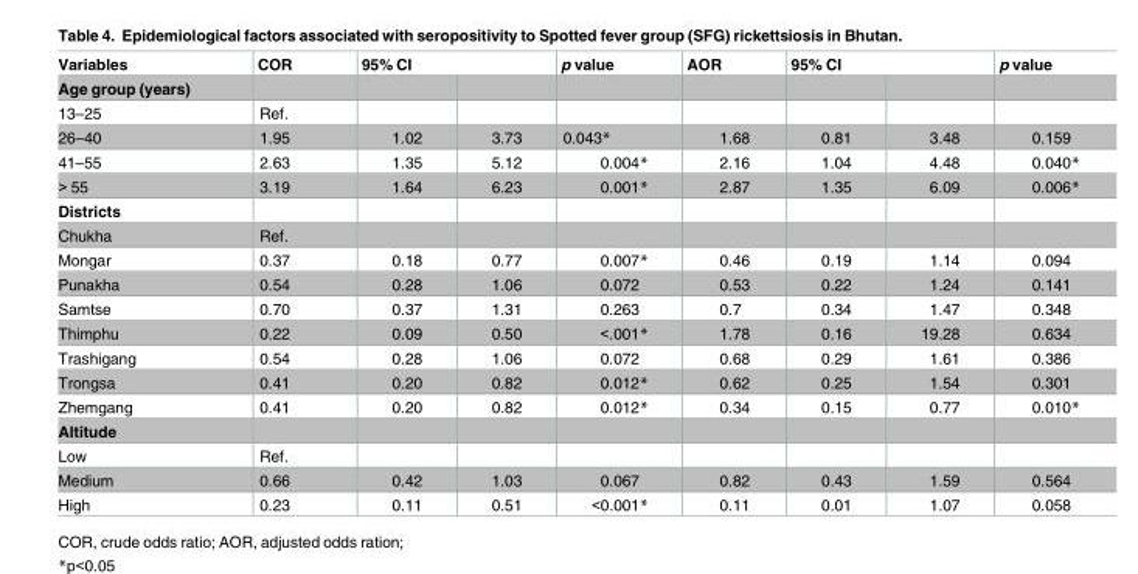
<table><thead><tr><td rowspan="2">Variables Age group (years)</td><td rowspan="2">COR</td><td colspan="2">95% CI</td><td rowspan="2">p value</td><td rowspan="2">AOR</td><td colspan="2">95% CI</td><td rowspan="2">p value</td></tr><tr><td></td><td></td><td></td><td></td></tr></thead><tbody><tr><td>13–25</td><td>Ref.</td><td></td><td></td><td></td><td></td><td></td><td></td><td></td></tr><tr><td>26–40</td><td>1.95</td><td>1.02</td><td>3.73</td><td>0.043*</td><td>1.68</td><td>0.81</td><td>3.48</td><td>0.159</td></tr><tr><td>41–55</td><td>2.63</td><td>1.35</td><td>5.12</td><td>0.004*</td><td>2.16</td><td>1.04</td><td>4.48</td><td>0.040*</td></tr><tr><td>&gt; 55</td><td>3.19</td><td>1.64</td><td>6.23</td><td>0.001*</td><td>2.87</td><td>1.35</td><td>6.09</td><td>0.006*</td></tr><tr><td colspan="9">Districts</td></tr><tr><td>Chukha</td><td>Ref.</td><td></td><td></td><td></td><td></td><td></td><td></td><td></td></tr><tr><td>Mongar</td><td>0.37</td><td>0.18</td><td>0.77</td><td>0.007*</td><td>0.46</td><td>0.19</td><td>1.14</td><td>0.094</td></tr><tr><td>Punakha</td><td>0.54</td><td>0.28</td><td>1.06</td><td>0.072</td><td>0.53</td><td>0.22</td><td>1.24</td><td>0.141</td></tr><tr><td>Samtse</td><td>0.70</td><td>0.37</td><td>1.31</td><td>0.263</td><td>0.7</td><td>0.34</td><td>1.47</td><td>0.348</td></tr><tr><td>Thimphu</td><td>0.22</td><td>0.09</td><td>0.50</td><td>&lt;.001*</td><td>1.78</td><td>0.16</td><td>19.28</td><td>0.634</td></tr><tr><td>Trashigang</td><td>0.54</td><td>0.28</td><td>1.06</td><td>0.072</td><td>0.68</td><td>0.29</td><td>1.61</td><td>0.386</td></tr><tr><td>Trongsa</td><td>0.41</td><td>0.20</td><td>0.82</td><td>0.012*</td><td>0.62</td><td>0.25</td><td>1.54</td><td>0.301</td></tr><tr><td>Zhemgang</td><td>0.41</td><td>0.20</td><td>0.82</td><td>0.012*</td><td>0.34</td><td>0.15</td><td>0.77</td><td>0.010*</td></tr><tr><td colspan="9">Altitude</td></tr><tr><td>Low</td><td>Ref.</td><td></td><td></td><td></td><td></td><td></td><td></td><td></td></tr><tr><td>Medium</td><td>0.66</td><td>0.42</td><td>1.03</td><td>0.067</td><td>0.82</td><td>0.43</td><td>1.59</td><td>0.564</td></tr><tr><td>High</td><td>0.23</td><td>0.11</td><td>0.51</td><td>&lt;0.001*</td><td>0.11</td><td>0.01</td><td>1.07</td><td>0.058</td></tr></tbody></table>